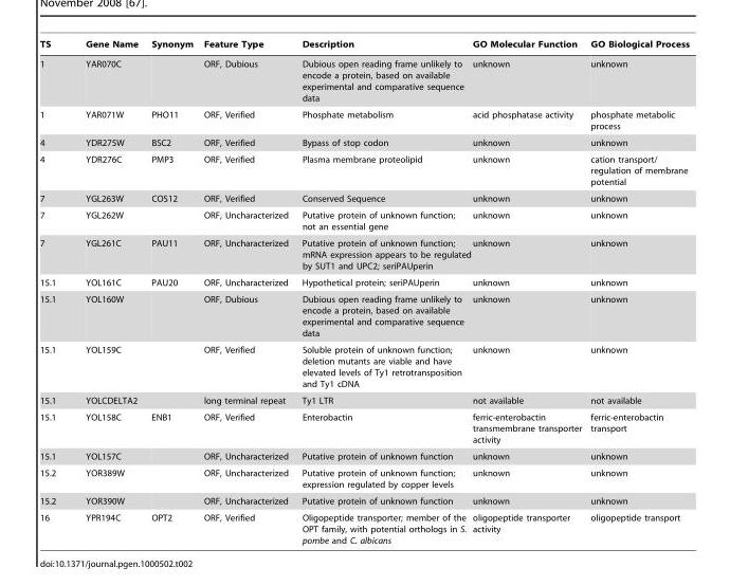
<table><thead><tr><td>TS</td><td>Gene Name</td><td>Synonym</td><td>Feature Type</td><td>Description</td><td>GO Molecular Function</td><td>GO Biological Process</td></tr></thead><tbody><tr><td>1</td><td>YAR070C</td><td></td><td>ORF, Dubious</td><td>Dubious open reading frame unlikely to encode a protein, based on available experimental and comparative sequence data</td><td>unknown</td><td>unknown</td></tr><tr><td>1</td><td>YAR071W</td><td>PHO11</td><td>ORF, Verified</td><td>Phosphate metabolism</td><td>acid phosphatase activity</td><td>phosphate metabolic process</td></tr><tr><td>4</td><td>YDR275W</td><td>BSC2</td><td>ORF, Verified</td><td>Bypass of stop codon</td><td>unknown</td><td>unknown</td></tr><tr><td>4</td><td>YDR276C</td><td>PMP3</td><td>ORF, Verified</td><td>Plasma membrane proteolipid</td><td>unknown</td><td>cation transport/ regulation of membrane potential</td></tr><tr><td>7</td><td>YGL263W</td><td>COS12</td><td>ORF, Verified</td><td>Conserved Sequence</td><td>unknown</td><td>unknown</td></tr><tr><td>7</td><td>YGL262W</td><td></td><td>ORF, Uncharacterized</td><td>Putative protein of unknown function; not an essential gene</td><td>unknown</td><td>unknown</td></tr><tr><td>7</td><td>YGL261C</td><td>PAU11</td><td>ORF, Uncharacterized</td><td>Putative protein of unknown function; mRNA expression appears to be regulated by SUT1 and UPC2; seriPAUperin</td><td>unknown</td><td>unknown</td></tr><tr><td>15.1</td><td>YOL161C</td><td>PAU20</td><td>ORF, Uncharacterized</td><td>Hypothetical protein; seriPAUperin</td><td>unknown</td><td>unknown</td></tr><tr><td>15.1</td><td>YOL160W</td><td></td><td>ORF, Dubious</td><td>Dubious open reading frame unlikely to encode a protein, based on available experimental and comparative sequence data</td><td>unknown</td><td>unknown</td></tr><tr><td>15.1</td><td>YOL159C</td><td></td><td>ORF, Verified</td><td>Soluble protein of unknown function; deletion mutants are viable and have elevated levels of Ty1 retrotransposition and Ty1 cDNA</td><td>unknown</td><td>unknown</td></tr><tr><td>15.1</td><td colspan="2">YOLCDELTA2</td><td>long terminal repeat</td><td>Ty1 LTR</td><td>not available</td><td>not available</td></tr><tr><td>15.1</td><td>YOL158C</td><td>ENB1</td><td>ORF, Verified</td><td>Enterobactin</td><td>ferric-enterobactin transmembrane transporter activity</td><td>ferric-enterobactin transport</td></tr><tr><td>15.1</td><td>YOL157C</td><td></td><td>ORF, Uncharacterized</td><td>Putative protein of unknown function</td><td>unknown</td><td>unknown</td></tr><tr><td>15.2</td><td>YOR389W</td><td></td><td>ORF, Uncharacterized</td><td>Putative protein of unknown function; expression regulated by copper levels</td><td>unknown</td><td>unknown</td></tr><tr><td>15.2</td><td>YOR390W</td><td></td><td>ORF, Uncharacterized</td><td>Putative protein of unknown function</td><td>unknown</td><td>unknown</td></tr><tr><td>16</td><td>YPR194C</td><td>OPT2</td><td>ORF, Verified</td><td>Oligopeptide transporter; member of the OPT family, with potential orthologs in S. pombe and C. albicans</td><td>oligopeptide transporter activity</td><td>oligopeptide transport</td></tr></tbody></table>